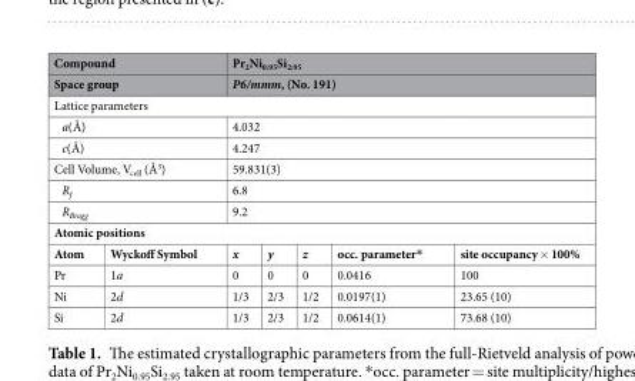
<table><thead><tr><td rowspan="2" colspan="2">Compound Space group</td><td rowspan="2" colspan="5">Pr<sub>2</sub>Ni<sub>0:95</sub>Si<sub>2:95</sub> P6/mmm, (No. 191)</td></tr><tr></tr></thead><tbody><tr><td colspan="7">Lattice parameters</td></tr><tr><td colspan="2">a(Å)</td><td colspan="5">4.032</td></tr><tr><td colspan="2">c(Å)</td><td colspan="5">4.247</td></tr><tr><td colspan="2">Cell Volume, V<sub>cell</sub> (Å<sup>3</sup>)</td><td colspan="5">59.831(3)</td></tr><tr><td colspan="2">R<sub>f</sub></td><td colspan="5">6.8</td></tr><tr><td colspan="2">R<sub>Bragg</sub></td><td colspan="5">9.2</td></tr><tr><td colspan="7">Atomic positions</td></tr><tr><td>Atom</td><td>Wyckoff Symbol</td><td>x</td><td>y</td><td>z</td><td>occ. parameter*</td><td>site occupancy × 100%</td></tr><tr><td>Pr</td><td>1a</td><td>0</td><td>0</td><td>0</td><td>0.0416</td><td>100</td></tr><tr><td>Ni</td><td>2d</td><td>1/3</td><td>2/3</td><td>1/2</td><td>0.0197(1)</td><td>23.65 (10)</td></tr><tr><td>Si</td><td>2d</td><td>1/3</td><td>2/3</td><td>1/2</td><td>0.0614(1)</td><td>73.68 (10)</td></tr></tbody></table>